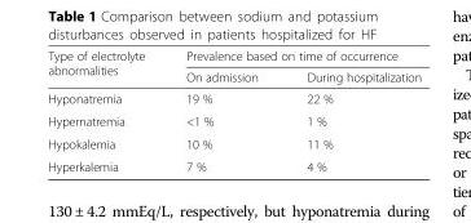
<table><thead><tr><td rowspan="2">Type of electrolyte abnormalities</td><td colspan="2">Prevalence based on time of occurrence</td></tr><tr><td>On admission</td><td>During hospitalization</td></tr></thead><tbody><tr><td>Hyponatremia</td><td>19 %</td><td>22 %</td></tr><tr><td>Hypernatremia</td><td>&lt;1 %</td><td>1 %</td></tr><tr><td>Hypokalemia</td><td>10 %</td><td>11 %</td></tr><tr><td>Hyperkalemia</td><td>7 %</td><td>4 %</td></tr></tbody></table>